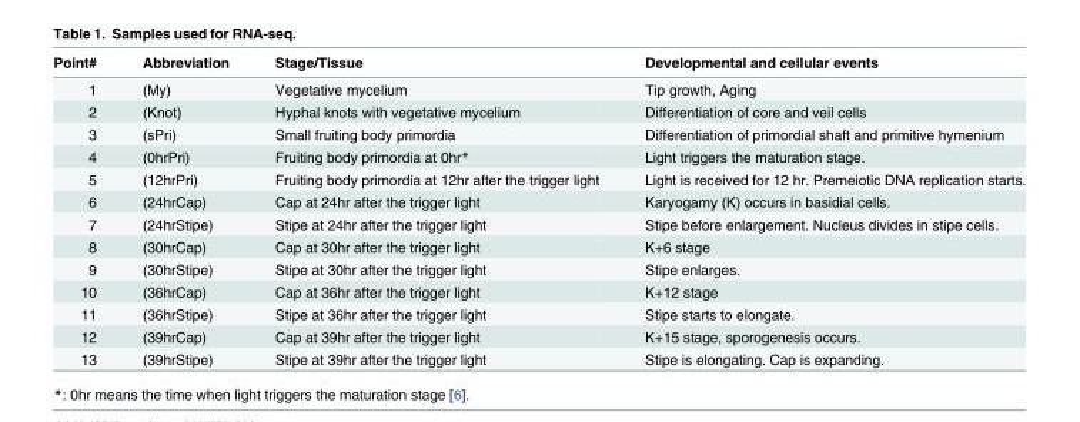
<table><thead><tr><td>Point#</td><td>Abbreviation</td><td>Stage/Tissue</td><td>Developmental and cellular events</td></tr></thead><tbody><tr><td>1</td><td>(My)</td><td>Vegetative mycelium</td><td>Tip growth, Aging</td></tr><tr><td>2</td><td>(Knot)</td><td>Hyphal knots with vegetative mycelium</td><td>Differentiation of core and veil cells</td></tr><tr><td>3</td><td>(sPri)</td><td>Small fruiting body primordia</td><td>Differentiation of primordial shaft and primitive hymenium</td></tr><tr><td>4</td><td>(0hrPri)</td><td>Fruiting body primordia at 0hr*</td><td>Light triggers the maturation stage.</td></tr><tr><td>5</td><td>(12hrPri)</td><td>Fruiting body primordia at 12hr after the trigger light</td><td>Light is received for 12 hr. Premeiotic DNA replication starts.</td></tr><tr><td>6</td><td>(24hrCap)</td><td>Cap at 24hr after the trigger light</td><td>Karyogamy (K) occurs in basidial cells.</td></tr><tr><td>7</td><td>(24hrStipe)</td><td>Stipe at 24hr after the trigger light</td><td>Stipe before enlargement. Nucleus divides in stipe cells.</td></tr><tr><td>8</td><td>(30hrCap)</td><td>Cap at 30hr after the trigger light</td><td>K+6 stage</td></tr><tr><td>9</td><td>(30hrStipe)</td><td>Stipe at 30hr after the trigger light</td><td>Stipe enlarges.</td></tr><tr><td>10</td><td>(36hrCap)</td><td>Cap at 36hr after the trigger light</td><td>K+12 stage</td></tr><tr><td>11</td><td>(36hrStipe)</td><td>Stipe at 36hr after the trigger light</td><td>Stipe starts to elongate.</td></tr><tr><td>12</td><td>(39hrCap)</td><td>Cap at 39hr after the trigger light</td><td>K+15 stage, sporogenesis occurs.</td></tr><tr><td>13</td><td>(39hrStipe)</td><td>Stipe at 39hr after the trigger light</td><td>Stipe is elongating. Cap is expanding.</td></tr></tbody></table>